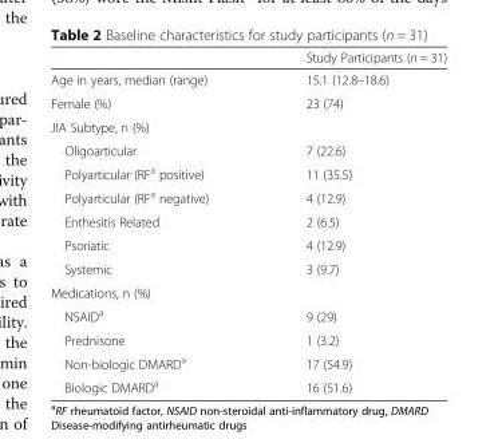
<table><thead><tr><td></td><td>Study Participants (n = 31)</td></tr></thead><tbody><tr><td>Age in years, median (range)</td><td>15.1 (12.8–18.6)</td></tr><tr><td>Female (%)</td><td>23 (74)</td></tr><tr><td colspan="2">JIA Subtype, n (%)</td></tr><tr><td>Oligoarticular</td><td>7 (22.6)</td></tr><tr><td>Polyarticular (RF<sup>a</sup> positive)</td><td>11 (35.5)</td></tr><tr><td>Polyarticular (RF<sup>a</sup> negative)</td><td>4 (12.9)</td></tr><tr><td>Enthesitis Related</td><td>2 (6.5)</td></tr><tr><td>Psoriatic</td><td>4 (12.9)</td></tr><tr><td>Systemic</td><td>3 (9.7)</td></tr><tr><td colspan="2">Medications, n (%)</td></tr><tr><td>NSAID<sup>a</sup></td><td>9 (29)</td></tr><tr><td>Prednisone</td><td>1 (3.2)</td></tr><tr><td>Non-biologic DMARD<sup>a</sup></td><td>17 (54.9)</td></tr><tr><td>Biologic DMARD<sup>a</sup></td><td>16 (51.6)</td></tr></tbody></table>